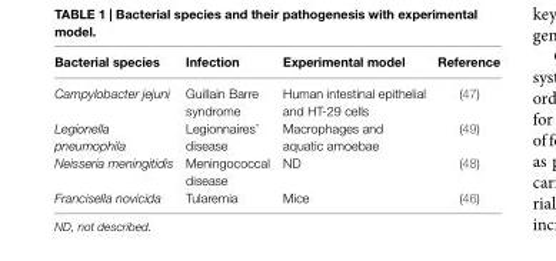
<table><thead><tr><td>Bacterial species</td><td>infection</td><td>experimental model</td><td>Reference</td></tr></thead><tbody><tr><td>Campylobacter jejuni</td><td>Guillain Barre syndrome</td><td>Human intestinal epithelial and HT-29 cells</td><td>(47)</td></tr><tr><td>Legionella pneumophila</td><td>Legionnaires’ disease</td><td>Macrophages and aquatic amoebae</td><td>(49)</td></tr><tr><td>Neisseria meningitidis</td><td>Meningococcal disease</td><td>ND</td><td>(48)</td></tr><tr><td>Francisella novicida</td><td>Tularemia</td><td>Mice</td><td>(46)</td></tr></tbody></table>